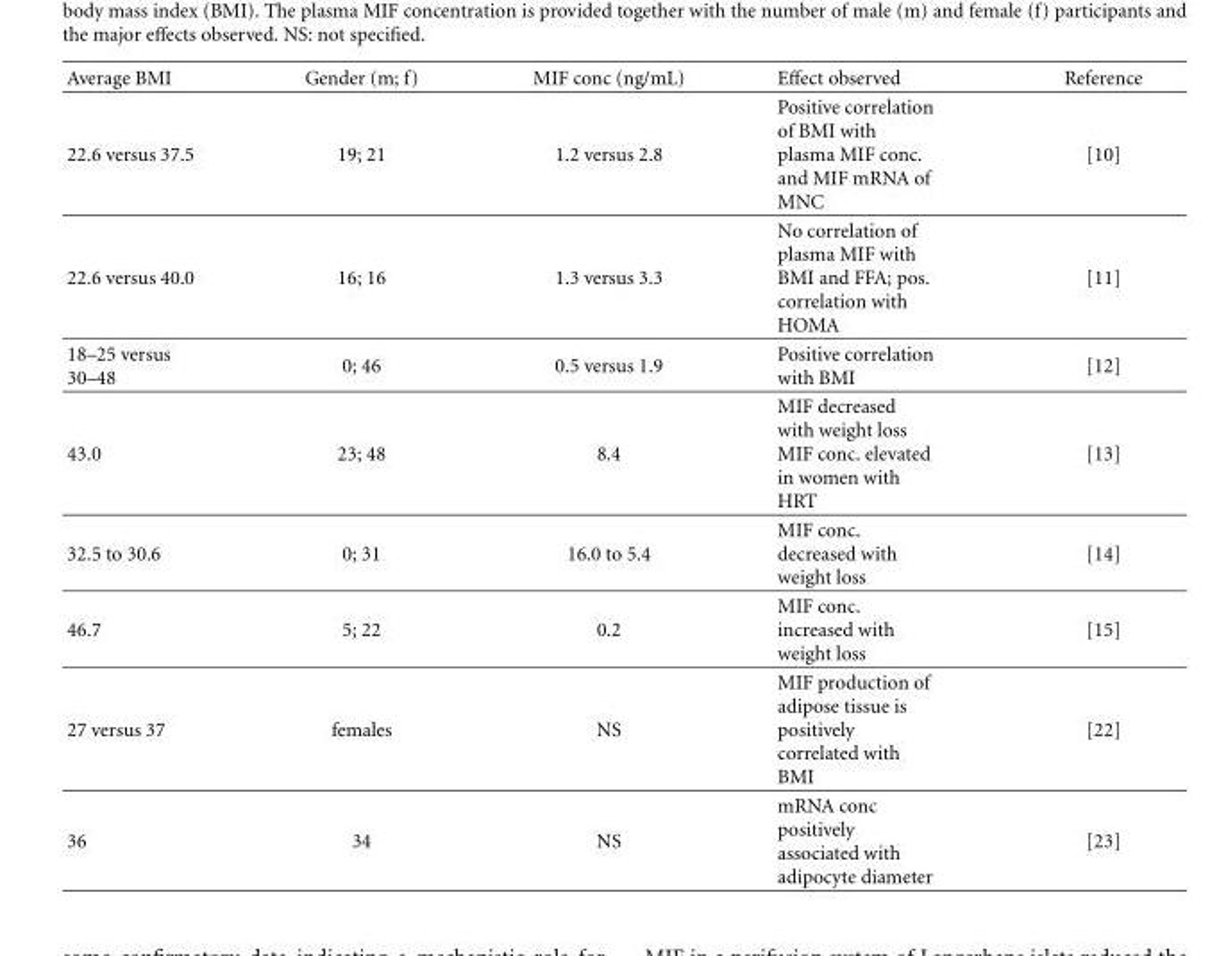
<table><thead><tr><td>Average BMI</td><td>Gender (m; f)</td><td>MIF conc (ng/mL)</td><td>Effect observed</td><td>Reference</td></tr></thead><tbody><tr><td>22.6 versus 37.5</td><td>19; 21</td><td>1.2 versus 2.8</td><td>Positive correlation of BMI with plasma MIF conc. and MIF mRNA of MNC</td><td>[10]</td></tr><tr><td>22.6 versus 40.0</td><td>16; 16</td><td>1.3 versus 3.3</td><td>No correlation of plasma MIF with BMI and FFA; pos. correlation with HOMA</td><td>[11]</td></tr><tr><td>18–25 versus 30–48</td><td>0; 46</td><td>0.5 versus 1.9</td><td>Positive correlation with BMI</td><td>[12]</td></tr><tr><td>43.0</td><td>23; 48</td><td>8.4</td><td>MIF decreased with weight loss MIF conc. elevated in women with HRT</td><td>[13]</td></tr><tr><td>32.5 to 30.6</td><td>0; 31</td><td>16.0 to 5.4</td><td>MIF conc. decreased with weight loss</td><td>[14]</td></tr><tr><td>46.7</td><td>5; 22</td><td>0.2</td><td>MIF conc. increased with weight loss</td><td>[15]</td></tr><tr><td>27 versus 37</td><td>females</td><td>NS</td><td>MIF production of adipose tissue is positively correlated with BMI</td><td>[22]</td></tr><tr><td>36</td><td>34</td><td>NS</td><td>mRNA conc positively associated with adipocyte diameter</td><td>[23]</td></tr></tbody></table>